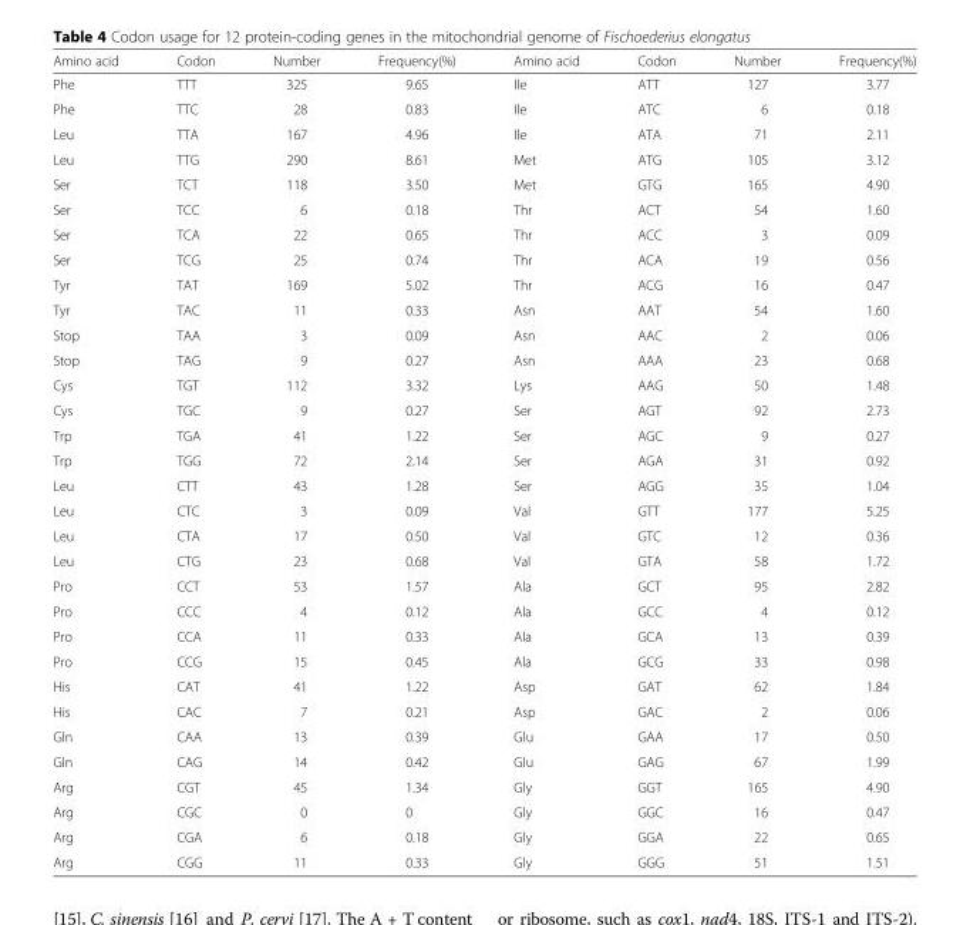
<table><thead><tr><td>Amino acid</td><td>Codon</td><td>Number</td><td>Frequency(%)</td><td>Amino acid</td><td>Codon</td><td>Number</td><td>Frequency(%)</td></tr></thead><tbody><tr><td>Phe</td><td>TTT</td><td>325</td><td>9.65</td><td>Ile</td><td>ATT</td><td>127</td><td>3.77</td></tr><tr><td>Phe</td><td>TTC</td><td>28</td><td>0.83</td><td>Ile</td><td>ATC</td><td>6</td><td>0.18</td></tr><tr><td>Leu</td><td>TTA</td><td>167</td><td>4.96</td><td>Ile</td><td>ATA</td><td>71</td><td>2.11</td></tr><tr><td>Leu</td><td>TTG</td><td>290</td><td>8.61</td><td>Met</td><td>ATG</td><td>105</td><td>3.12</td></tr><tr><td>Ser</td><td>TCT</td><td>118</td><td>3.50</td><td>Met</td><td>GTG</td><td>165</td><td>4.90</td></tr><tr><td>Ser</td><td>TCC</td><td>6</td><td>0.18</td><td>Thr</td><td>ACT</td><td>54</td><td>1.60</td></tr><tr><td>Ser</td><td>TCA</td><td>22</td><td>0.65</td><td>Thr</td><td>ACC</td><td>3</td><td>0.09</td></tr><tr><td>Ser</td><td>TCG</td><td>25</td><td>0.74</td><td>Thr</td><td>ACA</td><td>19</td><td>0.56</td></tr><tr><td>Tyr</td><td>TAT</td><td>169</td><td>5.02</td><td>Thr</td><td>ACG</td><td>16</td><td>0.47</td></tr><tr><td>Tyr</td><td>TAC</td><td>11</td><td>0.33</td><td>Asn</td><td>AAT</td><td>54</td><td>1.60</td></tr><tr><td>Stop</td><td>TAA</td><td>3</td><td>0.09</td><td>Asn</td><td>AAC</td><td>2</td><td>0.06</td></tr><tr><td>Stop</td><td>TAG</td><td>9</td><td>0.27</td><td>Asn</td><td>AAA</td><td>23</td><td>0.68</td></tr><tr><td>Cys</td><td>TGT</td><td>112</td><td>3.32</td><td>Lys</td><td>AAG</td><td>50</td><td>1.48</td></tr><tr><td>Cys</td><td>TGC</td><td>9</td><td>0.27</td><td>Ser</td><td>AGT</td><td>92</td><td>2.73</td></tr><tr><td>Trp</td><td>TGA</td><td>41</td><td>1.22</td><td>Ser</td><td>AGC</td><td>9</td><td>0.27</td></tr><tr><td>Trp</td><td>TGG</td><td>72</td><td>2.14</td><td>Ser</td><td>AGA</td><td>31</td><td>0.92</td></tr><tr><td>Leu</td><td>CTT</td><td>43</td><td>1.28</td><td>Ser</td><td>AGG</td><td>35</td><td>1.04</td></tr><tr><td>Leu</td><td>CTC</td><td>3</td><td>0.09</td><td>Val</td><td>GTT</td><td>177</td><td>5.25</td></tr><tr><td>Leu</td><td>CTA</td><td>17</td><td>0.50</td><td>Val</td><td>GTC</td><td>12</td><td>0.36</td></tr><tr><td>Leu</td><td>CTG</td><td>23</td><td>0.68</td><td>Val</td><td>GTA</td><td>58</td><td>1.72</td></tr><tr><td>Pro</td><td>CCT</td><td>53</td><td>1.57</td><td>Ala</td><td>GCT</td><td>95</td><td>2.82</td></tr><tr><td>Pro</td><td>CCC</td><td>4</td><td>0.12</td><td>Ala</td><td>GCC</td><td>4</td><td>0.12</td></tr><tr><td>Pro</td><td>CCA</td><td>11</td><td>0.33</td><td>Ala</td><td>GCA</td><td>13</td><td>0.39</td></tr><tr><td>Pro</td><td>CCG</td><td>15</td><td>0.45</td><td>Ala</td><td>GCG</td><td>33</td><td>0.98</td></tr><tr><td>His</td><td>CAT</td><td>41</td><td>1.22</td><td>Asp</td><td>GAT</td><td>62</td><td>1.84</td></tr><tr><td>His</td><td>CAC</td><td>7</td><td>0.21</td><td>Asp</td><td>GAC</td><td>2</td><td>0.06</td></tr><tr><td>Gln</td><td>CAA</td><td>13</td><td>0.39</td><td>Glu</td><td>GAA</td><td>17</td><td>0.50</td></tr><tr><td>Gln</td><td>CAG</td><td>14</td><td>0.42</td><td>Glu</td><td>GAG</td><td>67</td><td>1.99</td></tr><tr><td>Arg</td><td>CGT</td><td>45</td><td>1.34</td><td>Gly</td><td>GGT</td><td>165</td><td>4.90</td></tr><tr><td>Arg</td><td>CGC</td><td>0</td><td>0</td><td>Gly</td><td>GGC</td><td>16</td><td>0.47</td></tr><tr><td>Arg</td><td>CGA</td><td>6</td><td>0.18</td><td>Gly</td><td>GGA</td><td>22</td><td>0.65</td></tr><tr><td>Arg</td><td>CGG</td><td>11</td><td>0.33</td><td>Gly</td><td>GGG</td><td>51</td><td>1.51</td></tr></tbody></table>